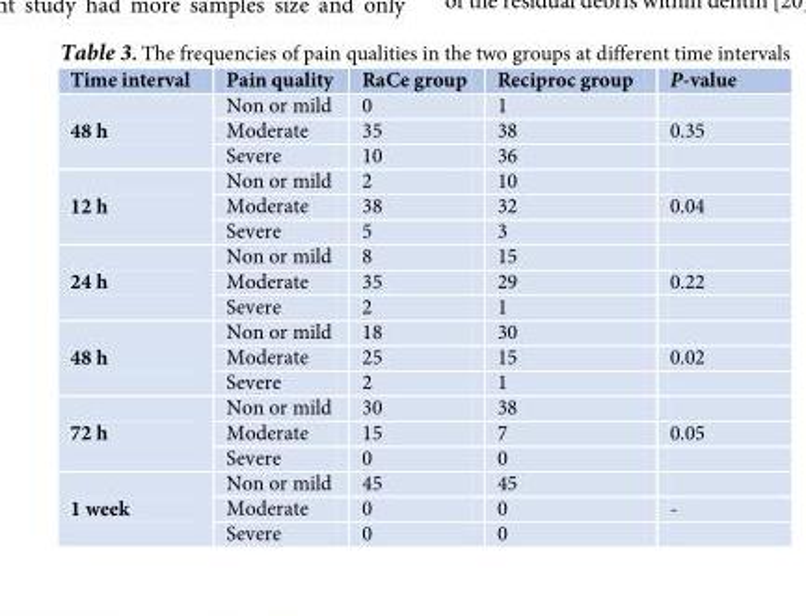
<table><thead><tr><td>Time interval</td><td>Pain quality</td><td>RaCe group</td><td>Reciproc group</td><td>P-value</td></tr></thead><tbody><tr><td rowspan="3">48 h</td><td>Non or mild</td><td>0</td><td>1</td><td></td></tr><tr><td>Moderate</td><td>35</td><td>38</td><td>0.35</td></tr><tr><td>Severe</td><td>10</td><td>36</td><td></td></tr><tr><td rowspan="3">12 h</td><td>Non or mild</td><td>2</td><td>10</td><td></td></tr><tr><td>Moderate</td><td>38</td><td>32</td><td>0.04</td></tr><tr><td>Severe</td><td>5</td><td>3</td><td></td></tr><tr><td rowspan="3">24 h</td><td>Non or mild</td><td>8</td><td>15</td><td></td></tr><tr><td>Moderate</td><td>35</td><td>29</td><td>0.22</td></tr><tr><td>Severe</td><td>2</td><td>1</td><td></td></tr><tr><td rowspan="3">48 h</td><td>Non or mild</td><td>18</td><td>30</td><td></td></tr><tr><td>Moderate</td><td>25</td><td>15</td><td>0.02</td></tr><tr><td>Severe</td><td>2</td><td>1</td><td></td></tr><tr><td rowspan="3">72 h</td><td>Non or mild</td><td>30</td><td>38</td><td></td></tr><tr><td>Moderate</td><td>15</td><td>7</td><td>0.05</td></tr><tr><td>Severe</td><td>0</td><td>0</td><td></td></tr><tr><td rowspan="3">1 week</td><td>Non or mild</td><td>45</td><td>45</td><td></td></tr><tr><td>Moderate</td><td>0</td><td>0</td><td>-</td></tr><tr><td>Severe</td><td>0</td><td>0</td><td></td></tr></tbody></table>